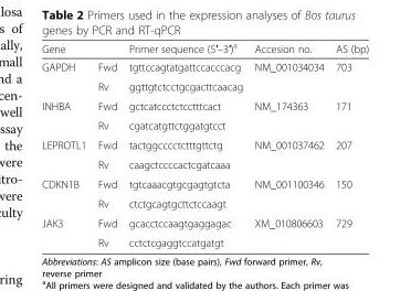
<table><thead><tr><td>Gene</td><td></td><td>Primer sequence (5′–3′)<sup>a</sup></td><td>Accesion no.</td><td>AS (bp)</td></tr></thead><tbody><tr><td rowspan="2">GAPDH</td><td>Fwd</td><td>tgttccagtatgattccacccacg</td><td>NM_001034034</td><td>703</td></tr><tr><td>Rv</td><td>ggttgtctcctgcgacttcaacag</td><td></td><td></td></tr><tr><td rowspan="2">INHBA</td><td>Fwd</td><td>gctcatccctctcctttcact</td><td>NM_174363</td><td>171</td></tr><tr><td>Rv</td><td>cgatcatgttctggatgtcct</td><td></td><td></td></tr><tr><td rowspan="2">LEPROTL1</td><td>Fwd</td><td>tactggcccctctttgttctg</td><td>NM_001037462</td><td>207</td></tr><tr><td>Rv</td><td>caagctccccactcgatcaaa</td><td></td><td></td></tr><tr><td rowspan="2">CDKN1B</td><td>Fwd</td><td>tgtcaaacgtgcgagtgtcta</td><td>NM_001100346</td><td>150</td></tr><tr><td>Rv</td><td>ctctgcagtgcttctccaagt</td><td></td><td></td></tr><tr><td rowspan="2">JAK3</td><td>Fwd</td><td>gcacctccaagtgaggagac</td><td>XM_010806603</td><td>729</td></tr><tr><td>Rv</td><td>cctctcgaggtccatgatgt</td><td></td><td></td></tr></tbody></table>